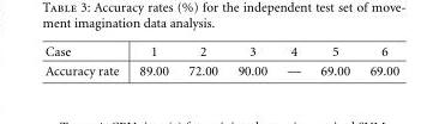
<table><thead><tr><td>Case</td><td>1</td><td>2</td><td>3</td><td>4</td><td>5</td><td>6</td></tr></thead><tbody><tr><td>Accuracy rate</td><td>89.00</td><td>72.00</td><td>90.00</td><td>—</td><td>69.00</td><td>69.00</td></tr></tbody></table>